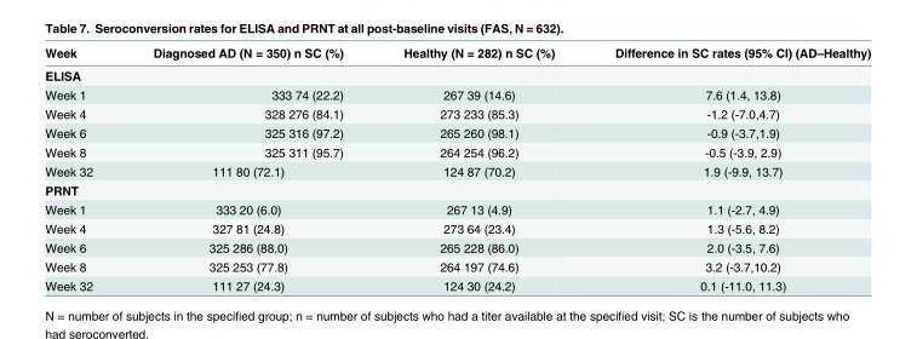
<table><thead><tr><td>Week</td><td>Diagnosed AD (N = 350) n SC (%)</td><td>Healthy (N = 282) n SC (%)</td><td>Difference in SC rates (95% CI) (AD–Healthy)</td></tr></thead><tbody><tr><td colspan="4">ELISA</td></tr><tr><td>Week 1</td><td>333 74 (22.2)</td><td>267 39 (14.6)</td><td>7.6 (1.4, 13.8)</td></tr><tr><td>Week 4</td><td>328 276 (84.1)</td><td>273 233 (85.3)</td><td>-1.2 (-7.0,4.7)</td></tr><tr><td>Week 6</td><td>325 316 (97.2)</td><td>265 260 (98.1)</td><td>-0.9 (-3.7,1.9)</td></tr><tr><td>Week 8</td><td>325 311 (95.7)</td><td>264 254 (96.2)</td><td>-0.5 (-3.9, 2.9)</td></tr><tr><td>Week 32</td><td>111 80 (72.1)</td><td>124 87 (70.2)</td><td>1.9 (-9.9, 13.7)</td></tr><tr><td colspan="4">PRNT</td></tr><tr><td>Week 1</td><td>333 20 (6.0)</td><td>267 13 (4.9)</td><td>1.1 (-2.7, 4.9)</td></tr><tr><td>Week 4</td><td>327 81 (24.8)</td><td>273 64 (23.4)</td><td>1.3 (-5.6, 8.2)</td></tr><tr><td>Week 6</td><td>325 286 (88.0)</td><td>265 228 (86.0)</td><td>2.0 (-3.5, 7.6)</td></tr><tr><td>Week 8</td><td>325 253 (77.8)</td><td>264 197 (74.6)</td><td>3.2 (-3.7,10.2)</td></tr><tr><td>Week 32</td><td>111 27 (24.3)</td><td>124 30 (24.2)</td><td>0.1 (-11.0, 11.3)</td></tr></tbody></table>